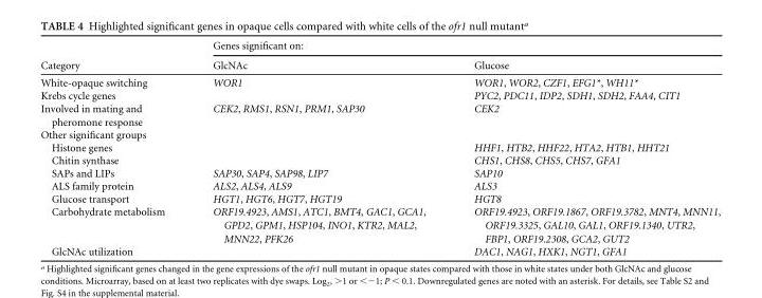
<table><thead><tr><td rowspan="2">Category</td><td colspan="2">Genes significant on:</td></tr><tr><td>GlcNAc</td><td>Glucose</td></tr></thead><tbody><tr><td>White-opaque switching</td><td>WOR1</td><td>WOR1, WOR2, CZF1, EFG1*, WH11*</td></tr><tr><td>Krebs cycle genes</td><td></td><td>PYC2, PDC11, IDP2, SDH1, SDH2, FAA4, CIT1</td></tr><tr><td>Involved in mating and pheromone response</td><td>CEK2, RMS1, RSN1, PRM1, SAP30</td><td>CEK2</td></tr><tr><td colspan="3">Other significant groups</td></tr><tr><td>Histone genes</td><td></td><td>HHF1, HTB2, HHF22, HTA2, HTB1, HHT21</td></tr><tr><td>Chitin synthase</td><td></td><td>CHS1, CHS8, CHS5, CHS7, GFA1</td></tr><tr><td>SAPs and LIPs</td><td>SAP30, SAP4, SAP98, LIP7</td><td>SAP10</td></tr><tr><td>ALS family protein</td><td>ALS2, ALS4, ALS9</td><td>ALS3</td></tr><tr><td>Glucose transport</td><td>HGT1, HGT6, HGT7, HGT19</td><td>HGT8</td></tr><tr><td>Carbohydrate metabolism</td><td>ORF19.4923, AMS1, ATC1, BMT4, GAC1, GCA1, GPD2, GPM1, HSP104, INO1, KTR2, MAL2, MNN22, PFK26</td><td>ORF19.4923, ORF19.1867, ORF19.3782, MNT4, MNN11, ORF19.3325, GAL10, GAL1, ORF19.1340, UTR2, FBP1, ORF19.2308, GCA2, GUT2</td></tr><tr><td>GlcNAc utilization</td><td></td><td>DAC1, NAG1, HXK1, NGT1, GFA1</td></tr></tbody></table>